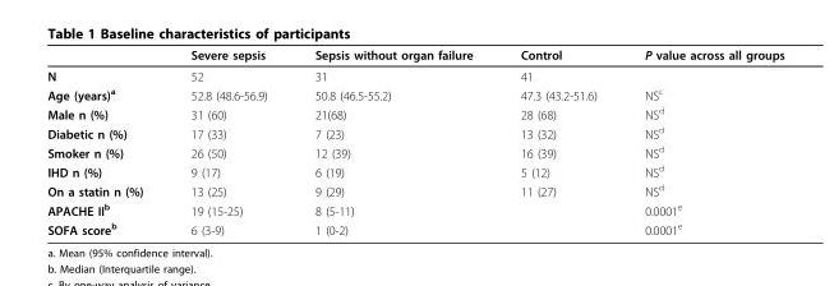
<table><thead><tr><td></td><td>Severe sepsis</td><td>Sepsis without organ failure</td><td>Control</td><td>P value across all groups</td></tr></thead><tbody><tr><td>N</td><td>52</td><td>31</td><td>41</td><td></td></tr><tr><td>Age (years)<sup>a</sup></td><td>52.8 (48.6-56.9)</td><td>50.8 (46.5-55.2)</td><td>47.3 (43.2-51.6)</td><td>NS<sup>c</sup></td></tr><tr><td>Male n (%)</td><td>31 (60)</td><td>21(68)</td><td>28 (68)</td><td>NS<sup>d</sup></td></tr><tr><td>Diabetic n (%)</td><td>17 (33)</td><td>7 (23)</td><td>13 (32)</td><td>NS<sup>d</sup></td></tr><tr><td>Smoker n (%)</td><td>26 (50)</td><td>12 (39)</td><td>16 (39)</td><td>NS<sup>d</sup></td></tr><tr><td>IHD n (%)</td><td>9 (17)</td><td>6 (19)</td><td>5 (12)</td><td>NS<sup>d</sup></td></tr><tr><td>On a statin n (%)</td><td>13 (25)</td><td>9 (29)</td><td>11 (27)</td><td>NS<sup>d</sup></td></tr><tr><td>APACHE II<sup>b</sup></td><td>19 (15-25)</td><td>8 (5-11)</td><td></td><td>0.0001<sup>e</sup></td></tr><tr><td>SOFA score<sup>b</sup></td><td>6 (3-9)</td><td>1 (0-2)</td><td></td><td>0.0001<sup>e</sup></td></tr></tbody></table>